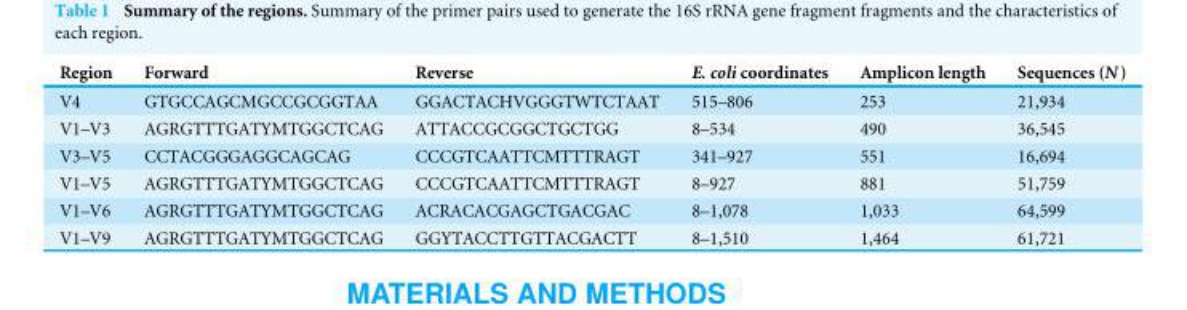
<table><thead><tr><td>Region</td><td>Forward</td><td>Reverse</td><td>E. coli coordinates</td><td>Amplicon length</td><td>Sequences (N)</td></tr></thead><tbody><tr><td>V4</td><td>GTGCCAGCMGCCGCGGTAA</td><td>GGACTACHVGGGTWTCTAAT</td><td>515–806</td><td>253</td><td>21,934</td></tr><tr><td>V1–V3</td><td>AGRGTTTGATYMTGGCTCAG</td><td>ATTACCGCGGCTGCTGG</td><td>8–534</td><td>490</td><td>36,545</td></tr><tr><td>V3–V5</td><td>CCTACGGGAGGCAGCAG</td><td>CCCGTCAATTCMTTTRAGT</td><td>341–927</td><td>551</td><td>16,694</td></tr><tr><td>V1–V5</td><td>AGRGTTTGATYMTGGCTCAG</td><td>CCCGTCAATTCMTTTRAGT</td><td>8–927</td><td>881</td><td>51,759</td></tr><tr><td>V1–V6</td><td>AGRGTTTGATYMTGGCTCAG</td><td>ACRACACGAGCTGACGAC</td><td>8–1,078</td><td>1,033</td><td>64,599</td></tr><tr><td>V1–V9</td><td>AGRGTTTGATYMTGGCTCAG</td><td>GGYTACCTTGTTACGACTT</td><td>8–1,510</td><td>1,464</td><td>61,721</td></tr></tbody></table>